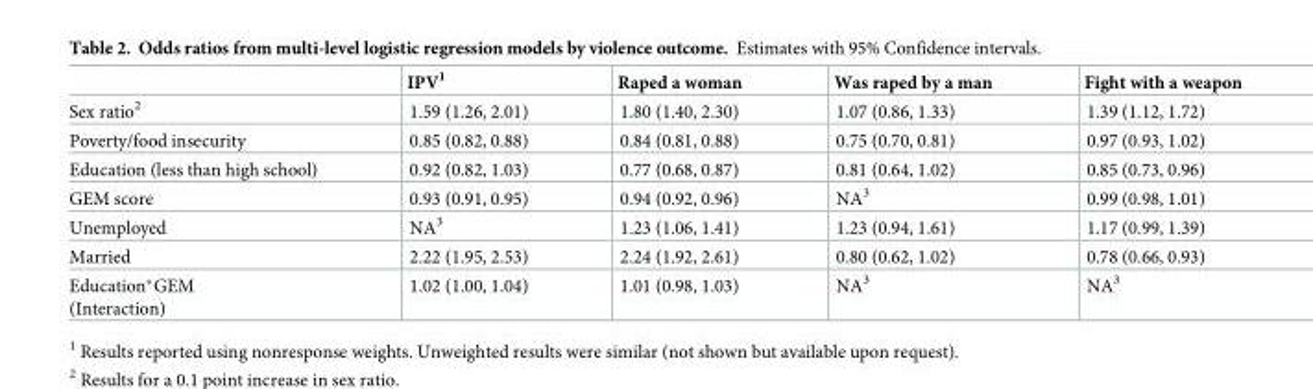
<table><thead><tr><td></td><td>IPV<sup>1</sup></td><td>Raped a woman</td><td>Was raped by a man</td><td>Fight with a weapon</td></tr></thead><tbody><tr><td>Sex ratio<sup>2</sup></td><td>1.59 (1.26, 2.01)</td><td>1.80 (1.40, 2.30)</td><td>1.07 (0.86, 1.33)</td><td>1.39 (1.12, 1.72)</td></tr><tr><td>Poverty/food insecurity</td><td>0.85 (0.82, 0.88)</td><td>0.84 (0.81, 0.88)</td><td>0.75 (0.70, 0.81)</td><td>0.97 (0.93, 1.02)</td></tr><tr><td>Education (less than high school)</td><td>0.92 (0.82, 1.03)</td><td>0.77 (0.68, 0.87)</td><td>0.81 (0.64, 1.02)</td><td>0.85 (0.73, 0.96)</td></tr><tr><td>GEM score</td><td>0.93 (0.91, 0.95)</td><td>0.94 (0.92, 0.96)</td><td>NA<sup>3</sup></td><td>0.99 (0.98, 1.01)</td></tr><tr><td>Unemployed</td><td>NA<sup>3</sup></td><td>1.23 (1.06, 1.41)</td><td>1.23 (0.94, 1.61)</td><td>1.17 (0.99, 1.39)</td></tr><tr><td>Married</td><td>2.22 (1.95, 2.53)</td><td>2.24 (1.92, 2.61)</td><td>0.80 (0.62, 1.02)</td><td>0.78 (0.66, 0.93)</td></tr><tr><td>Education*GEM (Interaction)</td><td>1.02 (1.00, 1.04)</td><td>1.01 (0.98, 1.03)</td><td>NA<sup>3</sup></td><td>NA<sup>3</sup></td></tr></tbody></table>